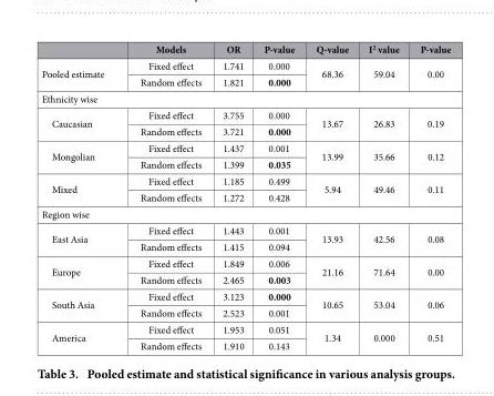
<table><thead><tr><td></td><td>Models</td><td>OR</td><td>P-value</td><td>Q-value</td><td>I<sup>2</sup> value</td><td>P-value</td></tr></thead><tbody><tr><td rowspan="2">Pooled estimate</td><td>Fixed effect</td><td>1.741</td><td>0.000</td><td rowspan="2">68.36</td><td rowspan="2">59.04</td><td rowspan="2">0.00</td></tr><tr><td>Random effects</td><td>1.821</td><td>0.000</td></tr><tr><td colspan="7">Ethnicity wise</td></tr><tr><td rowspan="2">Caucasian</td><td>Fixed effect</td><td>3.755</td><td>0.000</td><td rowspan="2">13.67</td><td rowspan="2">26.83</td><td rowspan="2">0.19</td></tr><tr><td>Random effects</td><td>3.721</td><td>0.000</td></tr><tr><td rowspan="2">Mongolian</td><td>Fixed effect</td><td>1.437</td><td>0.001</td><td rowspan="2">13.99</td><td rowspan="2">35.66</td><td rowspan="2">0.12</td></tr><tr><td>Random effects</td><td>1.399</td><td>0.035</td></tr><tr><td rowspan="2">Mixed</td><td>Fixed effect</td><td>1.185</td><td>0.499</td><td rowspan="2">5.94</td><td rowspan="2">49.46</td><td rowspan="2">0.11</td></tr><tr><td>Random effects</td><td>1.272</td><td>0.428</td></tr><tr><td colspan="7">Region wise</td></tr><tr><td rowspan="2">East Asia</td><td>Fixed effect</td><td>1.443</td><td>0.001</td><td rowspan="2">13.93</td><td rowspan="2">42.56</td><td rowspan="2">0.08</td></tr><tr><td>Random effects</td><td>1.415</td><td>0.094</td></tr><tr><td rowspan="2">Europe</td><td>Fixed effect</td><td>1.849</td><td>0.006</td><td rowspan="2">21.16</td><td rowspan="2">71.64</td><td rowspan="2">0.00</td></tr><tr><td>Random effects</td><td>2.465</td><td>0.003</td></tr><tr><td rowspan="2">South Asia</td><td>Fixed effect</td><td>3.123</td><td>0.000</td><td rowspan="2">10.65</td><td rowspan="2">53.04</td><td rowspan="2">0.06</td></tr><tr><td>Random effects</td><td>2.523</td><td>0.001</td></tr><tr><td rowspan="2">America</td><td>Fixed effect</td><td>1.953</td><td>0.051</td><td rowspan="2">1.34</td><td rowspan="2">0.000</td><td rowspan="2">0.51</td></tr><tr><td>Random effects</td><td>1.910</td><td>0.143</td></tr></tbody></table>